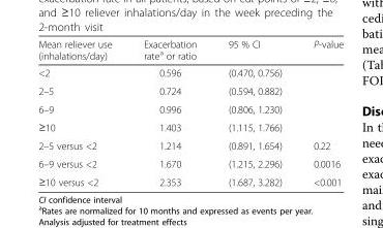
<table><thead><tr><td>Mean reliever use (inhalations/day)</td><td>Exacerbation rate<sup>a</sup> or ratio</td><td>95 % CI</td><td>P-value</td></tr></thead><tbody><tr><td>&lt;2</td><td>0.596</td><td>(0.470, 0.756)</td><td></td></tr><tr><td>2–5</td><td>0.724</td><td>(0.594, 0.882)</td><td></td></tr><tr><td>6–9</td><td>0.996</td><td>(0.806, 1.230)</td><td></td></tr><tr><td>≥10</td><td>1.403</td><td>(1.115, 1.766)</td><td></td></tr><tr><td>2–5 versus &lt;2</td><td>1.214</td><td>(0.891, 1.654)</td><td>0.22</td></tr><tr><td>6–9 versus &lt;2</td><td>1.670</td><td>(1.215, 2.296)</td><td>0.0016</td></tr><tr><td>≥10 versus &lt;2</td><td>2.353</td><td>(1.687, 3.282)</td><td>&lt;0.001</td></tr></tbody></table>